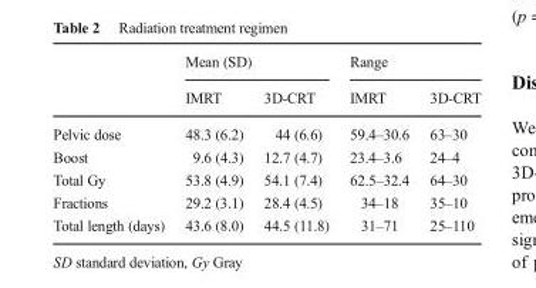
<table><thead><tr><td rowspan="2"></td><td colspan="2">Mean (SD)</td><td colspan="2">Range</td></tr><tr><td>IMRT</td><td>3D-CRT</td><td>IMRT</td><td>3D-CRT</td></tr></thead><tbody><tr><td>Pelvic dose</td><td>48.3 (6.2)</td><td>44 (6.6)</td><td>59.4–30.6</td><td>63–30</td></tr><tr><td>Boost</td><td>9.6 (4.3)</td><td>12.7 (4.7)</td><td>23.4–3.6</td><td>24–4</td></tr><tr><td>Total Gy</td><td>53.8 (4.9)</td><td>54.1 (7.4)</td><td>62.5–32.4</td><td>64–30</td></tr><tr><td>Fractions</td><td>29.2 (3.1)</td><td>28.4 (4.5)</td><td>34–18</td><td>35–10</td></tr><tr><td>Total length (days)</td><td>43.6 (8.0)</td><td>44.5 (11.8)</td><td>31–71</td><td>25–110</td></tr></tbody></table>